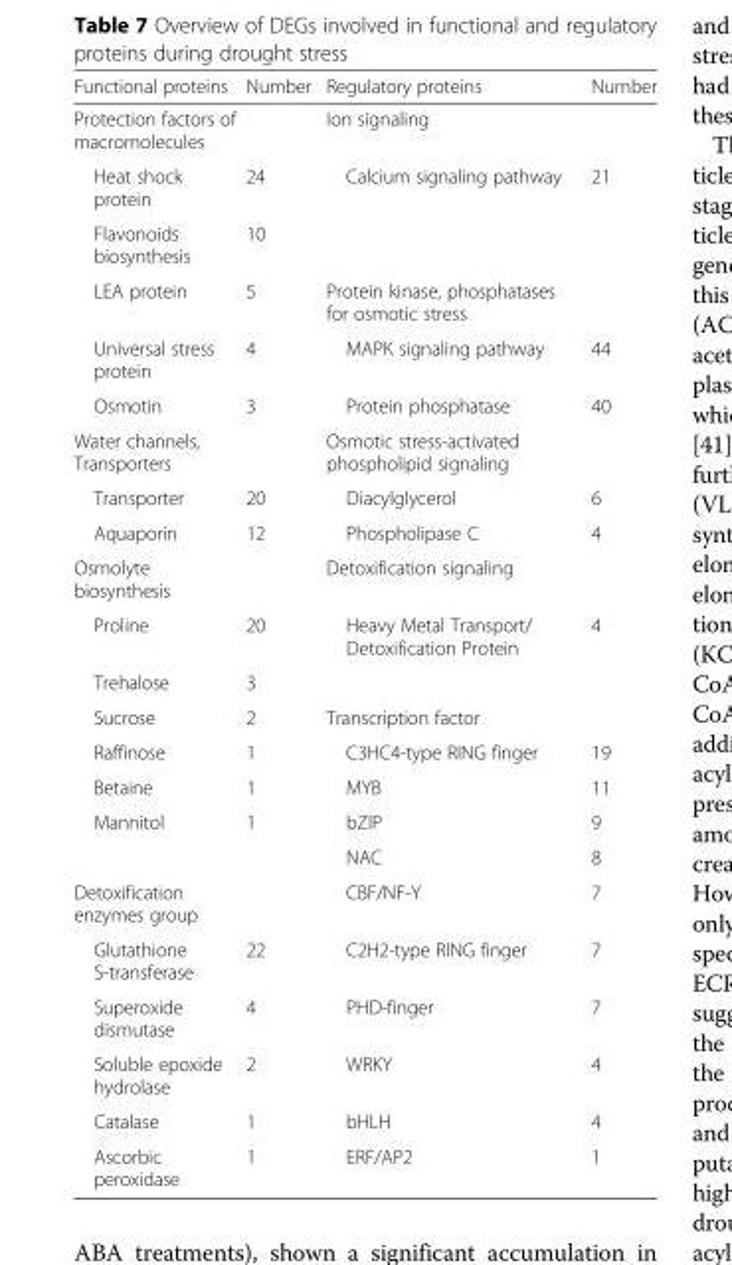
<table><thead><tr><td>Functional proteins</td><td>Number</td><td>Regulatory proteins</td><td>Number</td></tr></thead><tbody><tr><td colspan="2">Protection factors of macromolecules</td><td>Ion signaling</td><td></td></tr><tr><td>Heat shock protein</td><td>24</td><td>Calcium signaling pathway</td><td>21</td></tr><tr><td>Flavonoids biosynthesis</td><td>10</td><td></td><td></td></tr><tr><td>LEA protein</td><td>5</td><td colspan="2">Protein kinase, phosphatases for osmotic stress</td></tr><tr><td>Universal stress protein</td><td>4</td><td>MAPK signaling pathway</td><td>44</td></tr><tr><td>Osmotin</td><td>3</td><td>Protein phosphatase</td><td>40</td></tr><tr><td>Water channels, Transporters</td><td></td><td>Osmotic stress-activated phospholipid signaling</td><td></td></tr><tr><td>Transporter</td><td>20</td><td>Diacylglycerol</td><td>6</td></tr><tr><td>Aquaporin</td><td>12</td><td>Phospholipase C</td><td>4</td></tr><tr><td>Osmolyte biosynthesis</td><td></td><td>Detoxification signaling</td><td></td></tr><tr><td>Proline</td><td>20</td><td>Heavy Metal Transport/ Detoxification Protein</td><td>4</td></tr><tr><td>Trehalose</td><td>3</td><td></td><td></td></tr><tr><td>Sucrose</td><td>2</td><td>Transcription factor</td><td></td></tr><tr><td>Raffinose</td><td>1</td><td>C3HC4-type RING finger</td><td>19</td></tr><tr><td>Betaine</td><td>1</td><td>MYB</td><td>11</td></tr><tr><td rowspan="2">Mannitol</td><td>1</td><td>bZIP</td><td>9</td></tr><tr><td></td><td>NAC</td><td>8</td></tr><tr><td>Detoxification enzymes group</td><td></td><td>CBF/NF-Y</td><td>7</td></tr><tr><td>Glutathione S-transferase</td><td>22</td><td>C2H2-type RING finger</td><td>7</td></tr><tr><td>Superoxide dismutase</td><td>4</td><td>PHD-finger</td><td>7</td></tr><tr><td>Soluble epoxide hydrolase</td><td>2</td><td>WRKY</td><td>4</td></tr><tr><td>Catalase</td><td>1</td><td>bHLH</td><td>4</td></tr><tr><td>Ascorbic peroxidase</td><td>1</td><td>ERF/AP2</td><td>1</td></tr></tbody></table>